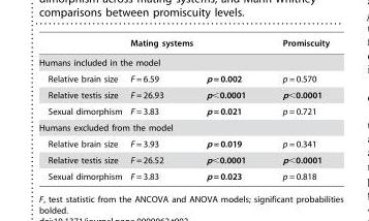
<table><thead><tr><td></td><td colspan="2">Mating systems</td><td>Promiscuity</td></tr><tr><td colspan="4">Humans included in the model</td></tr><tr><td>Relative brain size</td><td>F = 6.59</td><td>p = 0.002</td><td>p = 0.570</td></tr></thead><tbody><tr><td>Relative testis size</td><td>F = 26.93</td><td>p&lt;0.0001</td><td>p&lt;0.0001</td></tr><tr><td>Sexual dimorphism</td><td>F = 3.83</td><td>p = 0.021</td><td>p = 0.721</td></tr><tr><td colspan="4">Humans excluded from the model</td></tr><tr><td>Relative brain size</td><td>F = 3.93</td><td>p = 0.019</td><td>p = 0.341</td></tr><tr><td>Relative testis size</td><td>F = 26.52</td><td>p&lt;0.0001</td><td>p&lt;0.0001</td></tr><tr><td>Sexual dimorphism</td><td>F = 3.83</td><td>p = 0.023</td><td>p = 0.818</td></tr></tbody></table>